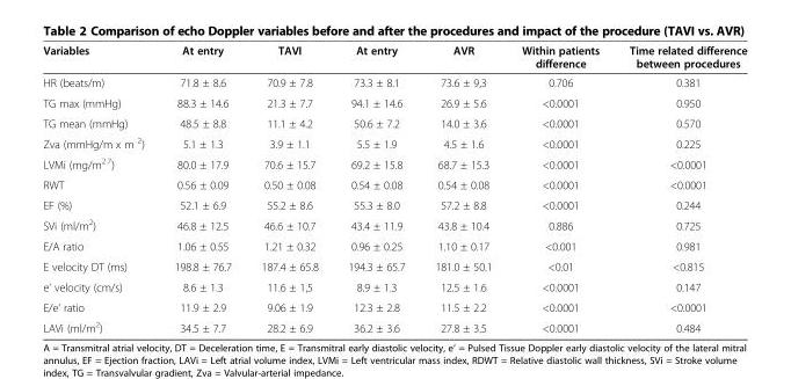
<table><thead><tr><td>Variables</td><td>At entry</td><td>TAVI</td><td>At entry</td><td>AVR</td><td>Within patients difference</td><td>Time related difference between procedures</td></tr></thead><tbody><tr><td>HR (beats/m)</td><td>71.8 ± 8.6</td><td>70.9 ± 7.8</td><td>73.3 ± 8.1</td><td>73.6 ± 9,3</td><td>0.706</td><td>0.381</td></tr><tr><td>TG max (mmHg)</td><td>88.3 ± 14.6</td><td>21.3 ± 7.7</td><td>94.1 ± 14.6</td><td>26.9 ± 5.6</td><td>&lt;0.0001</td><td>0.950</td></tr><tr><td>TG mean (mmHg)</td><td>48.5 ± 8.8</td><td>11.1 ± 4.2</td><td>50.6 ± 7.2</td><td>14.0 ± 3.6</td><td>&lt;0.0001</td><td>0.570</td></tr><tr><td>Zva (mmHg/m x m <sup>2</sup>)</td><td>5.1 ± 1.3</td><td>3.9 ± 1.1</td><td>5.5 ± 1.9</td><td>4.5 ± 1.6</td><td>&lt;0.0001</td><td>0.225</td></tr><tr><td>LVMi (mg/m<sup>2.7</sup>)</td><td>80.0 ± 17.9</td><td>70.6 ± 15.7</td><td>69.2 ± 15.8</td><td>68.7 ± 15.3</td><td>&lt;0.0001</td><td>&lt;0.0001</td></tr><tr><td>RWT</td><td>0.56 ± 0.09</td><td>0.50 ± 0.08</td><td>0.54 ± 0.08</td><td>0.54 ± 0.08</td><td>&lt;0.0001</td><td>&lt;0.0001</td></tr><tr><td>EF (%)</td><td>52.1 ± 6.9</td><td>55.2 ± 8.6</td><td>55.3 ± 8.0</td><td>57.2 ± 8.8</td><td>&lt;0.0001</td><td>0.244</td></tr><tr><td>SVi (ml/m<sup>2</sup>)</td><td>46.8 ± 12.5</td><td>46.6 ± 10.7</td><td>43.4 ± 11.9</td><td>43.8 ± 10.4</td><td>0.886</td><td>0.725</td></tr><tr><td>E/A ratio</td><td>1.06 ± 0.55</td><td>1.21 ± 0.32</td><td>0.96 ± 0.25</td><td>1.10 ± 0.17</td><td>&lt;0.001</td><td>0.981</td></tr><tr><td>E velocity DT (ms)</td><td>198.8 ± 76.7</td><td>187.4 ± 65.8</td><td>194.3 ± 65.7</td><td>181.0 ± 50.1</td><td>&lt;0.01</td><td>&lt;0.815</td></tr><tr><td>e’ velocity (cm/s)</td><td>8.6 ± 1.3</td><td>11.6 ± 1,5</td><td>8.9 ± 1.3</td><td>12.5 ± 1.6</td><td>&lt;0.0001</td><td>0.147</td></tr><tr><td>E/e’ ratio</td><td>11.9 ± 2.9</td><td>9.06 ± 1.9</td><td>12.3 ± 2.8</td><td>11.5 ± 2.2</td><td>&lt;0.0001</td><td>&lt;0.0001</td></tr><tr><td>LAVi (ml/m<sup>2</sup>)</td><td>34.5 ± 7.7</td><td>28.2 ± 6.9</td><td>36.2 ± 3.6</td><td>27.8 ± 3.5</td><td>&lt;0.0001</td><td>0.484</td></tr></tbody></table>